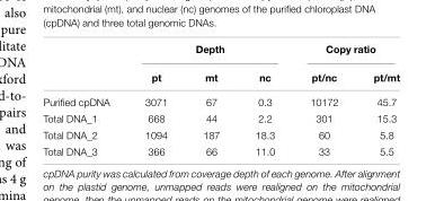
<table><thead><tr><td rowspan="2"></td><td colspan="3">Depth</td><td colspan="2">Copy ratio</td></tr><tr><td>pt</td><td>mt</td><td>nc</td><td>pt/nc</td><td>pt/mt</td></tr></thead><tbody><tr><td>Purified cpDNA</td><td>3071</td><td>67</td><td>0.3</td><td>10172</td><td>45.7</td></tr><tr><td>Total DNA_1</td><td>668</td><td>44</td><td>2.2</td><td>301</td><td>15.3</td></tr><tr><td>Total DNA_2</td><td>1094</td><td>187</td><td>18.3</td><td>60</td><td>5.8</td></tr><tr><td>Total DNA_3</td><td>366</td><td>66</td><td>11.0</td><td>33</td><td>5.5</td></tr></tbody></table>